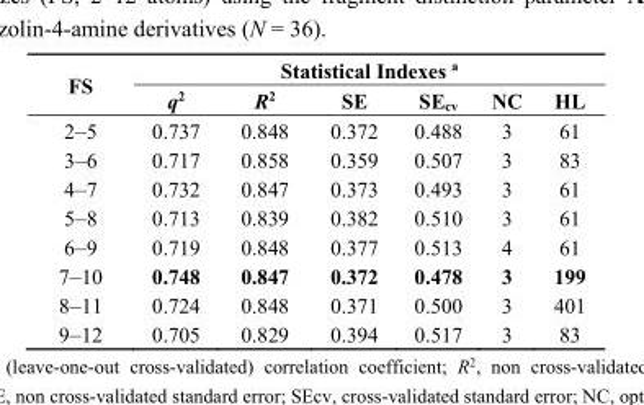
<table><thead><tr><td rowspan="2">FS</td><td colspan="6">Statistical Indexes <sup>a</sup></td></tr><tr><td>q<sup>2</sup></td><td>R<sup>2</sup></td><td>SE</td><td>SE<sub>cv</sub></td><td>NC</td><td>HL</td></tr></thead><tbody><tr><td>2–5</td><td>0.737</td><td>0.848</td><td>0.372</td><td>0.488</td><td>3</td><td>61</td></tr><tr><td>3–6</td><td>0.717</td><td>0.858</td><td>0.359</td><td>0.507</td><td>3</td><td>83</td></tr><tr><td>4–7</td><td>0.732</td><td>0.847</td><td>0.373</td><td>0.493</td><td>3</td><td>61</td></tr><tr><td>5–8</td><td>0.713</td><td>0.839</td><td>0.382</td><td>0.510</td><td>3</td><td>61</td></tr><tr><td>6–9</td><td>0.719</td><td>0.848</td><td>0.377</td><td>0.513</td><td>4</td><td>61</td></tr><tr><td>7–10</td><td>0.748</td><td>0.847</td><td>0.372</td><td>0.478</td><td>3</td><td>199</td></tr><tr><td>8–11</td><td>0.724</td><td>0.848</td><td>0.371</td><td>0.500</td><td>3</td><td>401</td></tr><tr><td>9–12</td><td>0.705</td><td>0.829</td><td>0.394</td><td>0.517</td><td>3</td><td>83</td></tr></tbody></table>